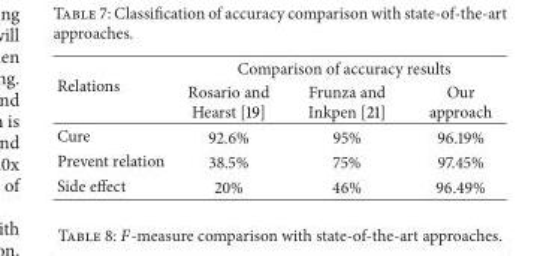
<table><thead><tr><td rowspan="2">Relations</td><td colspan="3">Comparison of accuracy results</td></tr><tr><td>Rosario and Hearst [19]</td><td>Frunza and Inkpen [21]</td><td>Our approach</td></tr></thead><tbody><tr><td>Cure</td><td>92.6%</td><td>95%</td><td>96.19%</td></tr><tr><td>Prevent relation</td><td>38.5%</td><td>75%</td><td>97.45%</td></tr><tr><td>Side effect</td><td>20%</td><td>46%</td><td>96.49%</td></tr></tbody></table>